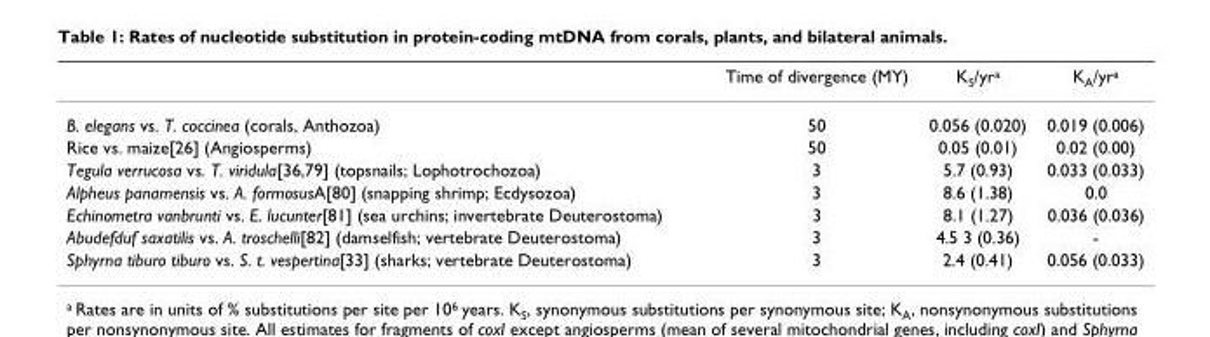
<table><thead><tr><td></td><td>Time of divergence (MY)</td><td>K<sub>S</sub>/yr<sup>a</sup></td><td>K<sub>A</sub>/yr<sup>a</sup></td></tr></thead><tbody><tr><td>B. elegans vs. T. coccinea (corals, Anthozoa)</td><td>50</td><td>0.056 (0.020)</td><td>0.019 (0.006)</td></tr><tr><td>Rice vs. maize[26] (Angiosperms)</td><td>50</td><td>0.05 (0.01)</td><td>0.02 (0.00)</td></tr><tr><td>Tegula verrucosa vs. T. viridula[36,79] (topsnails; Lophotrochozoa)</td><td>3</td><td>5.7 (0.93)</td><td>0.033 (0.033)</td></tr><tr><td>Alpheus panamensis vs. A. formosusA[80] (snapping shrimp; Ecdysozoa)</td><td>3</td><td>8.6 (1.38)</td><td>0.0</td></tr><tr><td>Echinometra vanbrunti vs. E. lucunter[81] (sea urchins; invertebrate Deuterostoma)</td><td>3</td><td>8.1 (1.27)</td><td>0.036 (0.036)</td></tr><tr><td>Abudefduf saxatilis vs. A. troschelli[82] (damselfish; vertebrate Deuterostoma)</td><td>3</td><td>4.5 3 (0.36)</td><td>-</td></tr><tr><td>Sphyrna tiburo tiburo vs. S. t. vespertina[33] (sharks; vertebrate Deuterostoma)</td><td>3</td><td>2.4 (0.41)</td><td>0.056 (0.033)</td></tr></tbody></table>